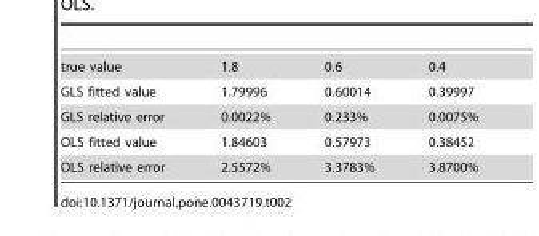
<table><tbody><tr><td>true value</td><td>1.8</td><td>0.6</td><td>0.4</td></tr><tr><td>GLS fitted value</td><td>1.79996</td><td>0.60014</td><td>0.39997</td></tr><tr><td>GLS relative error</td><td>0.0022%</td><td>0.233%</td><td>0.0075%</td></tr><tr><td>OLS fitted value</td><td>1.84603</td><td>0.57973</td><td>0.38452</td></tr><tr><td>OLS relative error</td><td>2.5572%</td><td>3.3783%</td><td>3.8700%</td></tr></tbody></table>